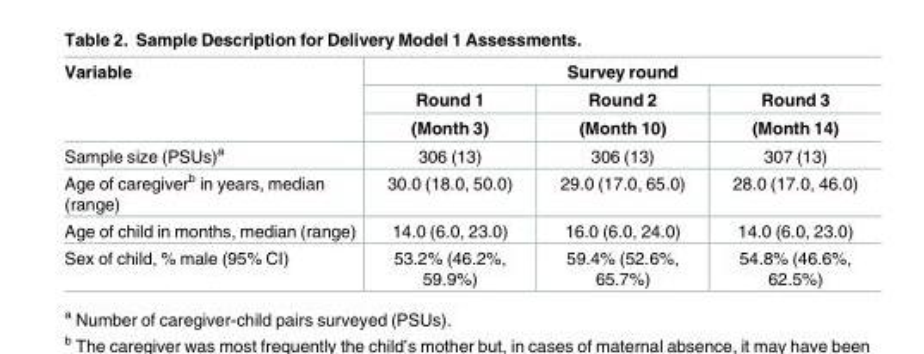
<table><thead><tr><td rowspan="3">Variable</td><td colspan="3">Survey round</td></tr><tr><td rowspan="2">Round 1 (Month 3)</td><td rowspan="2">Round 2 (Month 10)</td><td rowspan="2">Round 3 (Month 14)</td></tr><tr></tr></thead><tbody><tr><td>Sample size (PSUs)<sup>a</sup></td><td>306 (13)</td><td>306 (13)</td><td>307 (13)</td></tr><tr><td>Age of caregiver<sup>b</sup> in years, median (range)</td><td>30.0 (18.0, 50.0)</td><td>29.0 (17.0, 65.0)</td><td>28.0 (17.0, 46.0)</td></tr><tr><td>Age of child in months, median (range)</td><td>14.0 (6.0, 23.0)</td><td>16.0 (6.0, 24.0)</td><td>14.0 (6.0, 23.0)</td></tr><tr><td>Sex of child, % male (95% CI)</td><td>53.2% (46.2%, 59.9%)</td><td>59.4% (52.6%, 65.7%)</td><td>54.8% (46.6%, 62.5%)</td></tr></tbody></table>